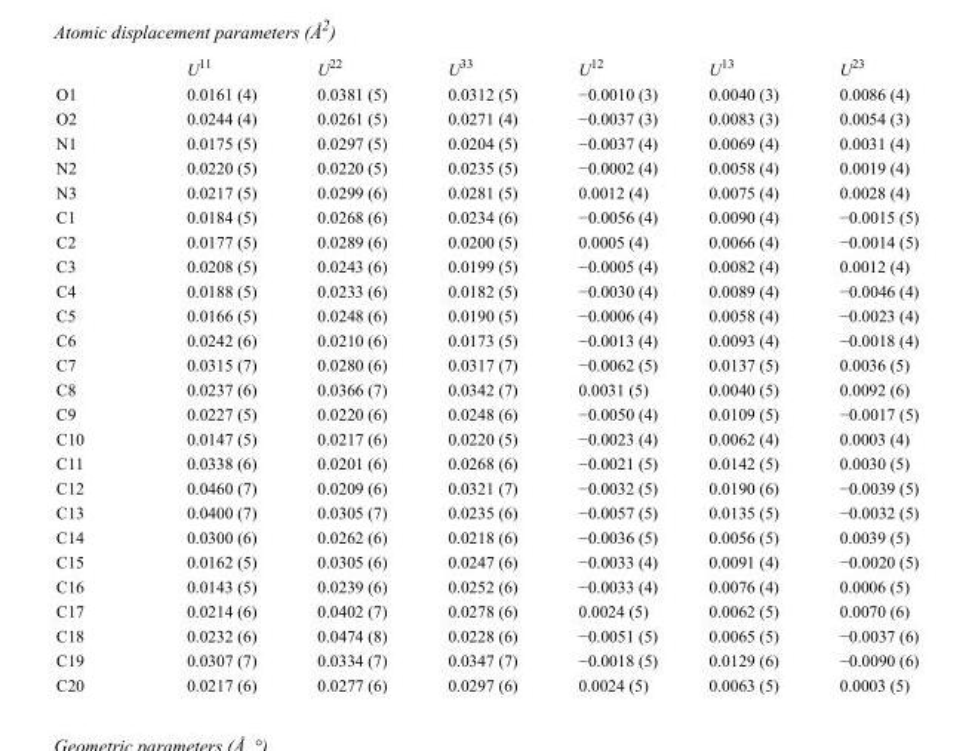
<table><thead><tr><td></td><td>U<sup>11</sup></td><td>U<sup>22</sup></td><td>U<sup>33</sup></td><td>U<sup>12</sup></td><td>U<sup>13</sup></td><td>U<sup>23</sup></td></tr></thead><tbody><tr><td>O1</td><td>0.0161 (4)</td><td>0.0381 (5)</td><td>0.0312 (5)</td><td>−0.0010 (3)</td><td>0.0040 (3)</td><td>0.0086 (4)</td></tr><tr><td>O2</td><td>0.0244 (4)</td><td>0.0261 (5)</td><td>0.0271 (4)</td><td>−0.0037 (3)</td><td>0.0083 (3)</td><td>0.0054 (3)</td></tr><tr><td>N1</td><td>0.0175 (5)</td><td>0.0297 (5)</td><td>0.0204 (5)</td><td>−0.0037 (4)</td><td>0.0069 (4)</td><td>0.0031 (4)</td></tr><tr><td>N2</td><td>0.0220 (5)</td><td>0.0220 (5)</td><td>0.0235 (5)</td><td>−0.0002 (4)</td><td>0.0058 (4)</td><td>0.0019 (4)</td></tr><tr><td>N3</td><td>0.0217 (5)</td><td>0.0299 (6)</td><td>0.0281 (5)</td><td>0.0012 (4)</td><td>0.0075 (4)</td><td>0.0028 (4)</td></tr><tr><td>C1</td><td>0.0184 (5)</td><td>0.0268 (6)</td><td>0.0234 (6)</td><td>−0.0056 (4)</td><td>0.0090 (4)</td><td>−0.0015 (5)</td></tr><tr><td>C2</td><td>0.0177 (5)</td><td>0.0289 (6)</td><td>0.0200 (5)</td><td>0.0005 (4)</td><td>0.0066 (4)</td><td>−0.0014 (5)</td></tr><tr><td>C3</td><td>0.0208 (5)</td><td>0.0243 (6)</td><td>0.0199 (5)</td><td>−0.0005 (4)</td><td>0.0082 (4)</td><td>0.0012 (4)</td></tr><tr><td>C4</td><td>0.0188 (5)</td><td>0.0233 (6)</td><td>0.0182 (5)</td><td>−0.0030 (4)</td><td>0.0089 (4)</td><td>−0.0046 (4)</td></tr><tr><td>C5</td><td>0.0166 (5)</td><td>0.0248 (6)</td><td>0.0190 (5)</td><td>−0.0006 (4)</td><td>0.0058 (4)</td><td>−0.0023 (4)</td></tr><tr><td>C6</td><td>0.0242 (6)</td><td>0.0210 (6)</td><td>0.0173 (5)</td><td>−0.0013 (4)</td><td>0.0093 (4)</td><td>−0.0018 (4)</td></tr><tr><td>C7</td><td>0.0315 (7)</td><td>0.0280 (6)</td><td>0.0317 (7)</td><td>−0.0062 (5)</td><td>0.0137 (5)</td><td>0.0036 (5)</td></tr><tr><td>C8</td><td>0.0237 (6)</td><td>0.0366 (7)</td><td>0.0342 (7)</td><td>0.0031 (5)</td><td>0.0040 (5)</td><td>0.0092 (6)</td></tr><tr><td>C9</td><td>0.0227 (5)</td><td>0.0220 (6)</td><td>0.0248 (6)</td><td>−0.0050 (4)</td><td>0.0109 (5)</td><td>−0.0017 (5)</td></tr><tr><td>C10</td><td>0.0147 (5)</td><td>0.0217 (6)</td><td>0.0220 (5)</td><td>−0.0023 (4)</td><td>0.0062 (4)</td><td>0.0003 (4)</td></tr><tr><td>C11</td><td>0.0338 (6)</td><td>0.0201 (6)</td><td>0.0268 (6)</td><td>−0.0021 (5)</td><td>0.0142 (5)</td><td>0.0030 (5)</td></tr><tr><td>C12</td><td>0.0460 (7)</td><td>0.0209 (6)</td><td>0.0321 (7)</td><td>−0.0032 (5)</td><td>0.0190 (6)</td><td>−0.0039 (5)</td></tr><tr><td>C13</td><td>0.0400 (7)</td><td>0.0305 (7)</td><td>0.0235 (6)</td><td>−0.0057 (5)</td><td>0.0135 (5)</td><td>−0.0032 (5)</td></tr><tr><td>C14</td><td>0.0300 (6)</td><td>0.0262 (6)</td><td>0.0218 (6)</td><td>−0.0036 (5)</td><td>0.0056 (5)</td><td>0.0039 (5)</td></tr><tr><td>C15</td><td>0.0162 (5)</td><td>0.0305 (6)</td><td>0.0247 (6)</td><td>−0.0033 (4)</td><td>0.0091 (4)</td><td>−0.0020 (5)</td></tr><tr><td>C16</td><td>0.0143 (5)</td><td>0.0239 (6)</td><td>0.0252 (6)</td><td>−0.0033 (4)</td><td>0.0076 (4)</td><td>0.0006 (5)</td></tr><tr><td>C17</td><td>0.0214 (6)</td><td>0.0402 (7)</td><td>0.0278 (6)</td><td>0.0024 (5)</td><td>0.0062 (5)</td><td>0.0070 (6)</td></tr><tr><td>C18</td><td>0.0232 (6)</td><td>0.0474 (8)</td><td>0.0228 (6)</td><td>−0.0051 (5)</td><td>0.0065 (5)</td><td>−0.0037 (6)</td></tr><tr><td>C19</td><td>0.0307 (7)</td><td>0.0334 (7)</td><td>0.0347 (7)</td><td>−0.0018 (5)</td><td>0.0129 (6)</td><td>−0.0090 (6)</td></tr><tr><td>C20</td><td>0.0217 (6)</td><td>0.0277 (6)</td><td>0.0297 (6)</td><td>0.0024 (5)</td><td>0.0063 (5)</td><td>0.0003 (5)</td></tr></tbody></table>